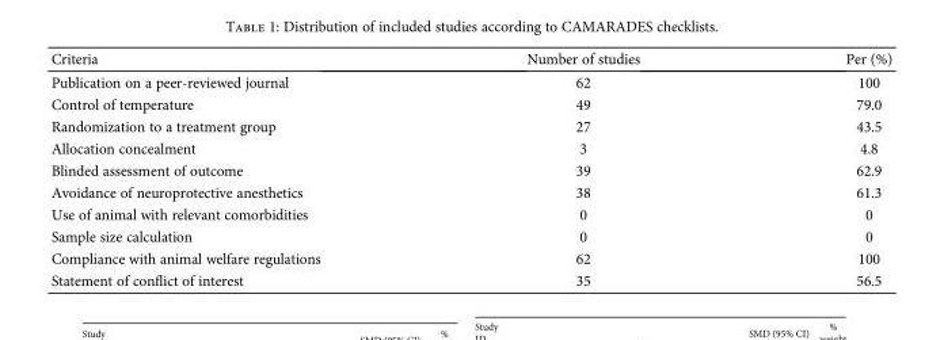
<table><thead><tr><td>Criteria</td><td>Number of studies</td><td>Per (%)</td></tr></thead><tbody><tr><td>Publication on a peer-reviewed journal</td><td>62</td><td>100</td></tr><tr><td>Control of temperature</td><td>49</td><td>79.0</td></tr><tr><td>Randomization to a treatment group</td><td>27</td><td>43.5</td></tr><tr><td>Allocation concealment</td><td>3</td><td>4.8</td></tr><tr><td>Blinded assessment of outcome</td><td>39</td><td>62.9</td></tr><tr><td>Avoidance of neuroprotective anesthetics</td><td>38</td><td>61.3</td></tr><tr><td>Use of animal with relevant comorbidities</td><td>0</td><td>0</td></tr><tr><td>Sample size calculation</td><td>0</td><td>0</td></tr><tr><td>Compliance with animal welfare regulations</td><td>62</td><td>100</td></tr><tr><td>Statement of conflict of interest</td><td>35</td><td>56.5</td></tr></tbody></table>